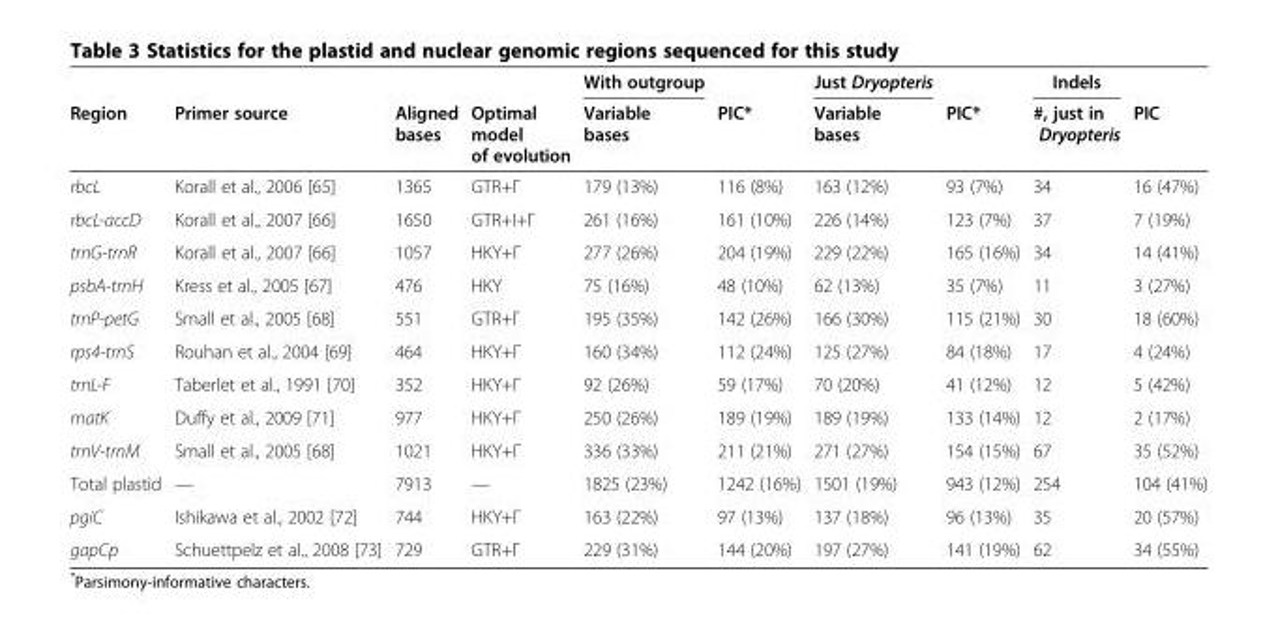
<table><thead><tr><td rowspan="2">Region</td><td rowspan="2">Primer source</td><td rowspan="2">Aligned bases</td><td rowspan="2">Optimal model of evolution</td><td rowspan="2">With outgroup Variable bases</td><td rowspan="2">PIC*</td><td rowspan="2">Just Dryopteris Variable bases</td><td rowspan="2">PIC*</td><td rowspan="2">Indels #, just in Dryopteris</td><td rowspan="2">PIC</td></tr><tr></tr></thead><tbody><tr><td>rbcL</td><td>Korall et al., 2006 [65]</td><td>1365</td><td>GTR+Γ</td><td>179 (13%)</td><td>116 (8%)</td><td>163 (12%)</td><td>93 (7%)</td><td>34</td><td>16 (47%)</td></tr><tr><td>rbcL-accD</td><td>Korall et al., 2007 [66]</td><td>1650</td><td>GTR+I+Γ</td><td>261 (16%)</td><td>161 (10%)</td><td>226 (14%)</td><td>123 (7%)</td><td>37</td><td>7 (19%)</td></tr><tr><td>trnG-trnR</td><td>Korall et al., 2007 [66]</td><td>1057</td><td>HKY+Γ</td><td>277 (26%)</td><td>204 (19%)</td><td>229 (22%)</td><td>165 (16%)</td><td>34</td><td>14 (41%)</td></tr><tr><td>psbA-trnH</td><td>Kress et al., 2005 [67]</td><td>476</td><td>HKY</td><td>75 (16%)</td><td>48 (10%)</td><td>62 (13%)</td><td>35 (7%)</td><td>11</td><td>3 (27%)</td></tr><tr><td>trnP-petG</td><td>Small et al., 2005 [68]</td><td>551</td><td>GTR+Γ</td><td>195 (35%)</td><td>142 (26%)</td><td>166 (30%)</td><td>115 (21%)</td><td>30</td><td>18 (60%)</td></tr><tr><td>rps4-trnS</td><td>Rouhan et al., 2004 [69]</td><td>464</td><td>HKY+Γ</td><td>160 (34%)</td><td>112 (24%)</td><td>125 (27%)</td><td>84 (18%)</td><td>17</td><td>4 (24%)</td></tr><tr><td>trnL-F</td><td>Taberlet et al., 1991 [70]</td><td>352</td><td>HKY+Γ</td><td>92 (26%)</td><td>59 (17%)</td><td>70 (20%)</td><td>41 (12%)</td><td>12</td><td>5 (42%)</td></tr><tr><td>matK</td><td>Duffy et al., 2009 [71]</td><td>977</td><td>HKY+Γ</td><td>250 (26%)</td><td>189 (19%)</td><td>189 (19%)</td><td>133 (14%)</td><td>12</td><td>2 (17%)</td></tr><tr><td>trnV-trnM</td><td>Small et al., 2005 [68]</td><td>1021</td><td>HKY+Γ</td><td>336 (33%)</td><td>211 (21%)</td><td>271 (27%)</td><td>154 (15%)</td><td>67</td><td>35 (52%)</td></tr><tr><td>Total plastid</td><td>—</td><td>7913</td><td>—</td><td>1825 (23%)</td><td>1242 (16%)</td><td>1501 (19%)</td><td>943 (12%)</td><td>254</td><td>104 (41%)</td></tr><tr><td>pgiC</td><td>Ishikawa et al., 2002 [72]</td><td>744</td><td>HKY+Γ</td><td>163 (22%)</td><td>97 (13%)</td><td>137 (18%)</td><td>96 (13%)</td><td>35</td><td>20 (57%)</td></tr><tr><td>gapCp</td><td>Schuettpelz et al., 2008 [73]</td><td>729</td><td>GTR+Γ</td><td>229 (31%)</td><td>144 (20%)</td><td>197 (27%)</td><td>141 (19%)</td><td>62</td><td>34 (55%)</td></tr></tbody></table>